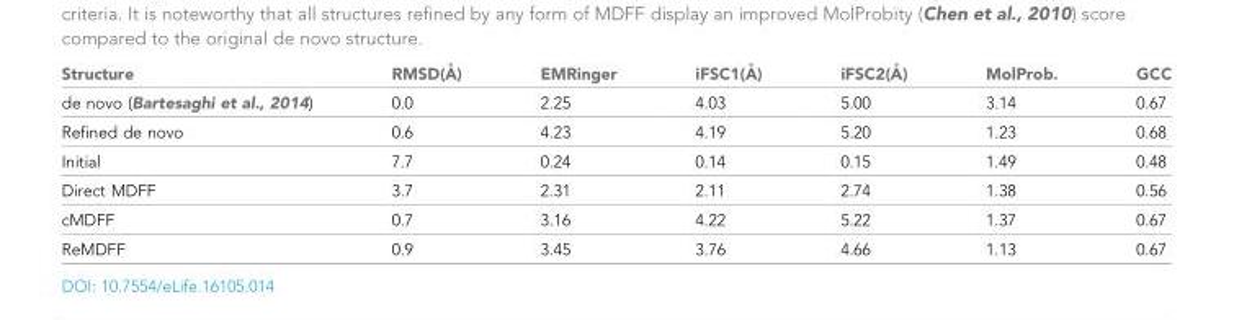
<table><thead><tr><td>Structure</td><td>RMSD(A˚ )</td><td>EMRinger</td><td>iFSC1(A˚ )</td><td>iFSC2(A˚ )</td><td>MolProb.</td><td>GCC</td></tr></thead><tbody><tr><td>de novo (Bartesaghi et al., 2014)</td><td>0.0</td><td>2.25</td><td>4.03</td><td>5.00</td><td>3.14</td><td>0.67</td></tr><tr><td>Refined de novo</td><td>0.6</td><td>4.23</td><td>4.19</td><td>5.20</td><td>1.23</td><td>0.68</td></tr><tr><td>Initial</td><td>7.7</td><td>0.24</td><td>0.14</td><td>0.15</td><td>1.49</td><td>0.48</td></tr><tr><td>Direct MDFF</td><td>3.7</td><td>2.31</td><td>2.11</td><td>2.74</td><td>1.38</td><td>0.56</td></tr><tr><td>cMDFF</td><td>0.7</td><td>3.16</td><td>4.22</td><td>5.22</td><td>1.37</td><td>0.67</td></tr><tr><td>ReMDFF</td><td>0.9</td><td>3.45</td><td>3.76</td><td>4.66</td><td>1.13</td><td>0.67</td></tr></tbody></table>